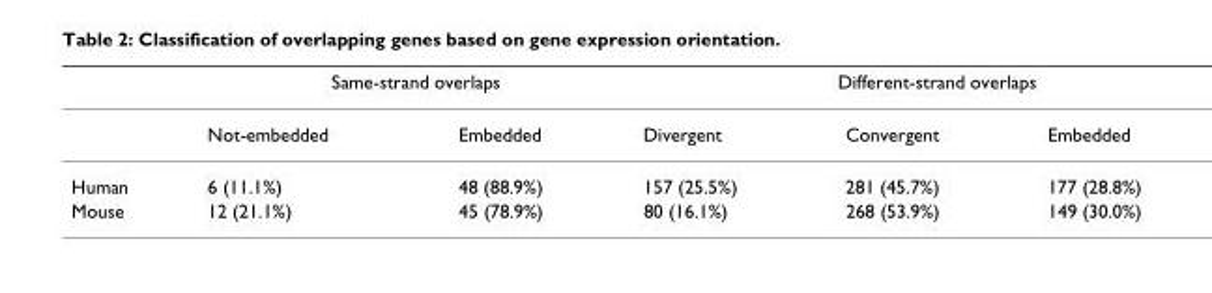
<table><thead><tr><td rowspan="2"></td><td colspan="2">Same-strand overlaps</td><td colspan="3">Different-strand overlaps</td></tr><tr><td>Not-embedded</td><td>Embedded</td><td>Divergent</td><td>Convergent</td><td>Embedded</td></tr></thead><tbody><tr><td>Human</td><td>6 (11.1%)</td><td>48 (88.9%)</td><td>157 (25.5%)</td><td>281 (45.7%)</td><td>177 (28.8%)</td></tr><tr><td>Mouse</td><td>12 (21.1%)</td><td>45 (78.9%)</td><td>80 (16.1%)</td><td>268 (53.9%)</td><td>149 (30.0%)</td></tr></tbody></table>